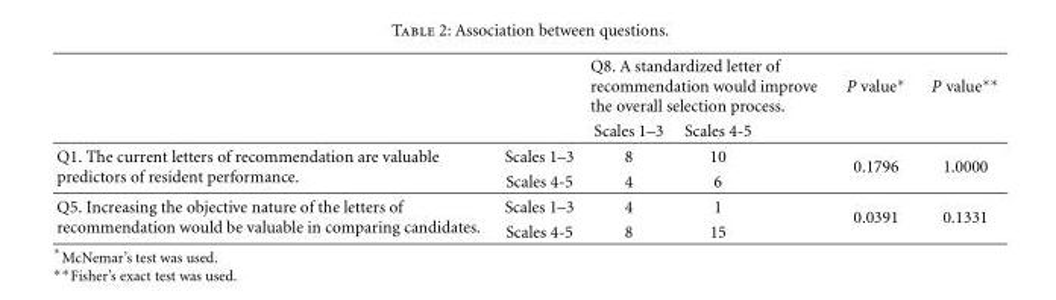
<table><thead><tr><td rowspan="2"></td><td rowspan="2"></td><td colspan="2">Q8. A standardized letter of recommendation would improve the overall selection process.</td><td rowspan="2">P value∗</td><td rowspan="2">P value∗∗</td></tr><tr><td>Scales 1–3</td><td>Scales 4-5</td></tr></thead><tbody><tr><td rowspan="2">Q1. The current letters of recommendation are valuable predictors of resident performance.</td><td>Scales 1–3</td><td>8</td><td>10</td><td rowspan="2">0.1796</td><td rowspan="2">1.0000</td></tr><tr><td>Scales 4-5</td><td>4</td><td>6</td></tr><tr><td rowspan="2">Q5. Increasing the objective nature of the letters of recommendation would be valuable in comparing candidates.</td><td>Scales 1–3</td><td>4</td><td>1</td><td rowspan="2">0.0391</td><td rowspan="2">0.1331</td></tr><tr><td>Scales 4-5</td><td>8</td><td>15</td></tr></tbody></table>